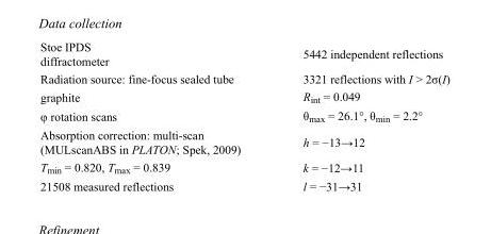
<table><tbody><tr><td>Stoe IPDS diffractometer</td><td>5442 independent reflections</td></tr><tr><td>Radiation source: fine-focus sealed tube</td><td>3321 reflections with I &gt; 2σ(I)</td></tr><tr><td>graphite</td><td>R<sub>int</sub> = 0.049</td></tr><tr><td>φ rotation scans</td><td>θ<sub>max</sub> = 26.1°, θ<sub>min</sub> = 2.2°</td></tr><tr><td>Absorption correction: multi-scan (MULscanABS in PLATON; Spek, 2009)</td><td>h = −13→12</td></tr><tr><td>T<sub>min</sub> = 0.820, T<sub>max</sub> = 0.839</td><td>k = −12→11</td></tr><tr><td>21508 measured reflections</td><td>l = −31→31</td></tr></tbody></table>